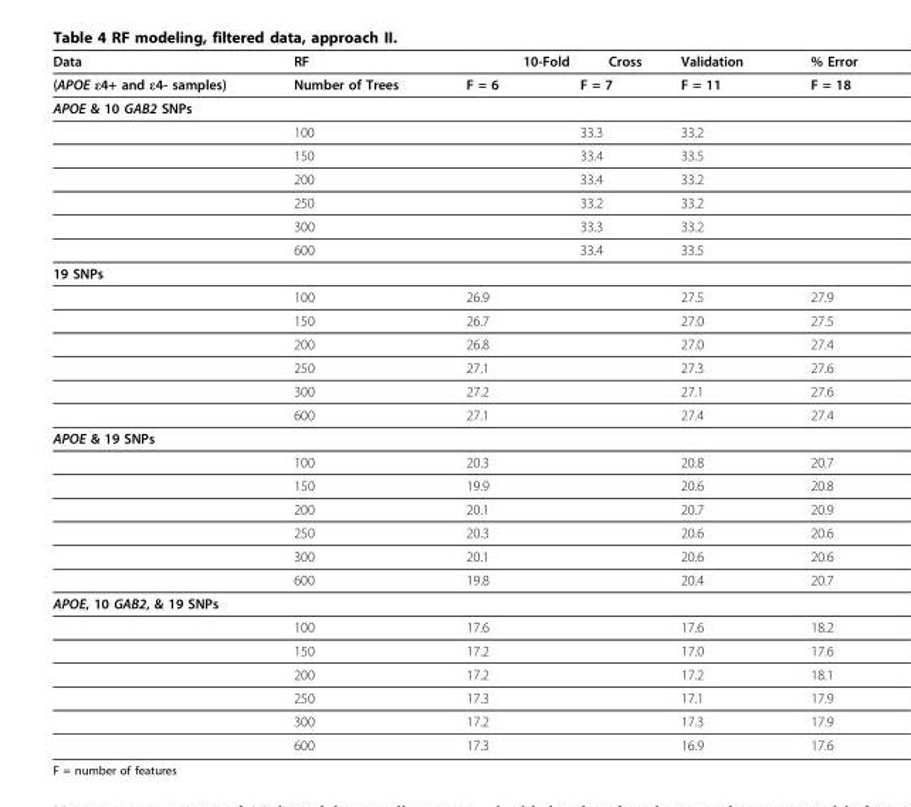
<table><thead><tr><td>Data</td><td>RF</td><td>10-Fold</td><td>Cross</td><td>Validation</td><td>% Error</td></tr></thead><tbody><tr><td>(APOE ε4+ and ε4- samples)</td><td>Number of Trees</td><td>F = 6</td><td>F = 7</td><td>F = 11</td><td>F = 18</td></tr><tr><td colspan="6">APOE &amp; 10 GAB2 SNPs</td></tr><tr><td></td><td>100</td><td></td><td>33.3</td><td>33.2</td><td></td></tr><tr><td></td><td>150</td><td></td><td>33.4</td><td>33.5</td><td></td></tr><tr><td></td><td>200</td><td></td><td>33.4</td><td>33.2</td><td></td></tr><tr><td></td><td>250</td><td></td><td>33.2</td><td>33.2</td><td></td></tr><tr><td></td><td>300</td><td></td><td>33.3</td><td>33.2</td><td></td></tr><tr><td></td><td>600</td><td></td><td>33.4</td><td>33.5</td><td></td></tr><tr><td colspan="6">19 SNPs</td></tr><tr><td></td><td>100</td><td>26.9</td><td></td><td>27.5</td><td>27.9</td></tr><tr><td></td><td>150</td><td>26.7</td><td></td><td>27.0</td><td>27.5</td></tr><tr><td></td><td>200</td><td>26.8</td><td></td><td>27.0</td><td>27.4</td></tr><tr><td></td><td>250</td><td>27.1</td><td></td><td>27.3</td><td>27.6</td></tr><tr><td></td><td>300</td><td>27.2</td><td></td><td>27.1</td><td>27.6</td></tr><tr><td></td><td>600</td><td>27.1</td><td></td><td>27.4</td><td>27.4</td></tr><tr><td colspan="6">APOE &amp; 19 SNPs</td></tr><tr><td></td><td>100</td><td>20.3</td><td></td><td>20.8</td><td>20.7</td></tr><tr><td></td><td>150</td><td>19.9</td><td></td><td>20.6</td><td>20.8</td></tr><tr><td></td><td>200</td><td>20.1</td><td></td><td>20.7</td><td>20.9</td></tr><tr><td></td><td>250</td><td>20.3</td><td></td><td>20.6</td><td>20.6</td></tr><tr><td></td><td>300</td><td>20.1</td><td></td><td>20.6</td><td>20.6</td></tr><tr><td></td><td>600</td><td>19.8</td><td></td><td>20.4</td><td>20.7</td></tr><tr><td colspan="6">APOE, 10 GAB2, &amp; 19 SNPs</td></tr><tr><td></td><td>100</td><td>17.6</td><td></td><td>17.6</td><td>18.2</td></tr><tr><td></td><td>150</td><td>17.2</td><td></td><td>17.0</td><td>17.6</td></tr><tr><td></td><td>200</td><td>17.2</td><td></td><td>17.2</td><td>18.1</td></tr><tr><td></td><td>250</td><td>17.3</td><td></td><td>17.1</td><td>17.9</td></tr><tr><td></td><td>300</td><td>17.2</td><td></td><td>17.3</td><td>17.9</td></tr><tr><td></td><td>600</td><td>17.3</td><td></td><td>16.9</td><td>17.6</td></tr></tbody></table>